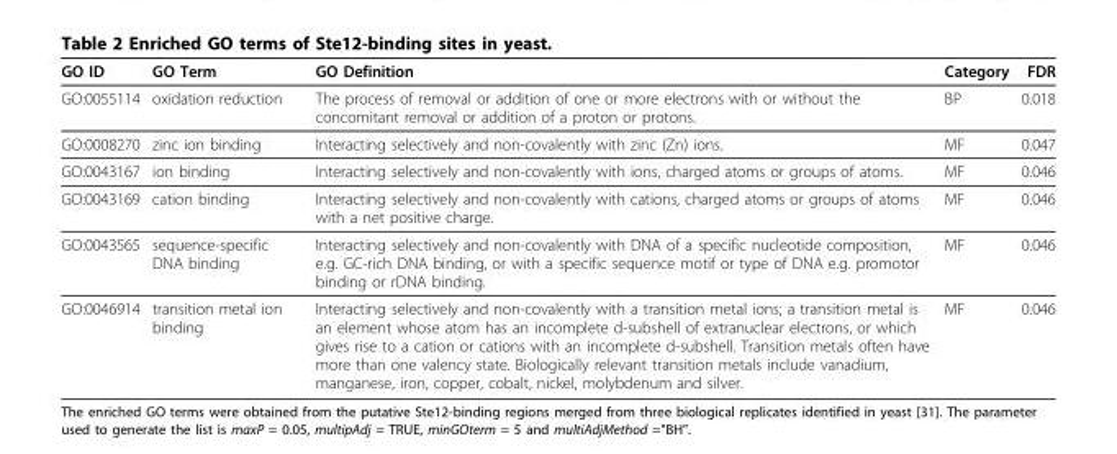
<table><thead><tr><td>GO ID</td><td>GO Term</td><td>GO Definition</td><td>Category</td><td>FDR</td></tr></thead><tbody><tr><td>GO:0055114</td><td>oxidation reduction</td><td>The process of removal or addition of one or more electrons with or without the concomitant removal or addition of a proton or protons.</td><td>BP</td><td>0.018</td></tr><tr><td>GO:0008270</td><td>zinc ion binding</td><td>Interacting selectively and non-covalently with zinc (Zn) ions.</td><td>MF</td><td>0.047</td></tr><tr><td>GO:0043167</td><td>ion binding</td><td>Interacting selectively and non-covalently with ions, charged atoms or groups of atoms.</td><td>MF</td><td>0.046</td></tr><tr><td>GO:0043169</td><td>cation binding</td><td>Interacting selectively and non-covalently with cations, charged atoms or groups of atoms with a net positive charge.</td><td>MF</td><td>0.046</td></tr><tr><td>GO:0043565</td><td>sequence-specific DNA binding</td><td>Interacting selectively and non-covalently with DNA of a specific nucleotide composition, e.g. GC-rich DNA binding, or with a specific sequence motif or type of DNA e.g. promotor binding or rDNA binding.</td><td>MF</td><td>0.046</td></tr><tr><td>GO:0046914</td><td>transition metal ion binding</td><td>Interacting selectively and non-covalently with a transition metal ions; a transition metal is an element whose atom has an incomplete d-subshell of extranuclear electrons, or which gives rise to a cation or cations with an incomplete d-subshell. Transition metals often have more than one valency state. Biologically relevant transition metals include vanadium, manganese, iron, copper, cobalt, nickel, molybdenum and silver.</td><td>MF</td><td>0.046</td></tr></tbody></table>